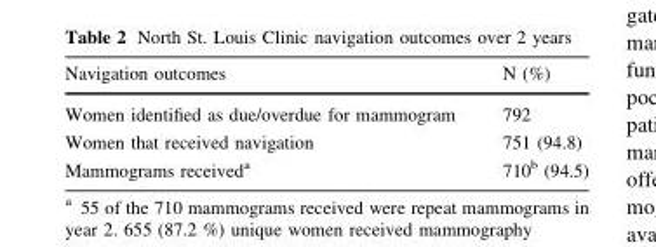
<table><thead><tr><td>Navigation outcomes</td><td>N (%)</td></tr></thead><tbody><tr><td>Women identified as due/overdue for mammogram</td><td>792</td></tr><tr><td>Women that received navigation</td><td>751 (94.8)</td></tr><tr><td>Mammograms received<sup>a</sup></td><td>710<sup>b</sup> (94.5)</td></tr></tbody></table>